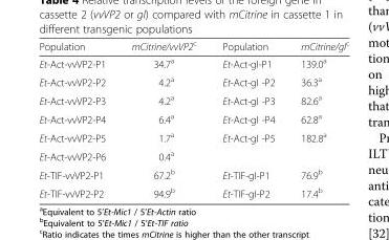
<table><thead><tr><td>Population</td><td>mCitrine/vvVP2<sup>c</sup></td><td>Population</td><td>mCitrine/gI<sup>c</sup></td></tr></thead><tbody><tr><td>Et-Act-vvVP2-P1</td><td>34.7<sup>a</sup></td><td>Et-Act-gI-P1</td><td>139.0<sup>a</sup></td></tr><tr><td>Et-Act-vvVP2-P2</td><td>4.2<sup>a</sup></td><td>Et-Act-gI -P2</td><td>36.3<sup>a</sup></td></tr><tr><td>Et-Act-vvVP2-P3</td><td>4.2<sup>a</sup></td><td>Et-Act-gI -P3</td><td>82.6<sup>a</sup></td></tr><tr><td>Et-Act-vvVP2-P4</td><td>6.4<sup>a</sup></td><td>Et-Act-gI -P4</td><td>62.8<sup>a</sup></td></tr><tr><td>Et-Act-vvVP2-P5</td><td>1.7<sup>a</sup></td><td>Et-Act-gI -P5</td><td>182.8<sup>a</sup></td></tr><tr><td>Et-Act-vvVP2-P6</td><td>0.4<sup>a</sup></td><td></td><td></td></tr><tr><td>Et-TIF-vvVP2-P1</td><td>67.2<sup>b</sup></td><td>Et-TIF-gI-P1</td><td>76.9<sup>b</sup></td></tr><tr><td>Et-TIF-vvVP2-P2</td><td>94.9<sup>b</sup></td><td>Et-TIF-gI-P2</td><td>17.4<sup>b</sup></td></tr></tbody></table>